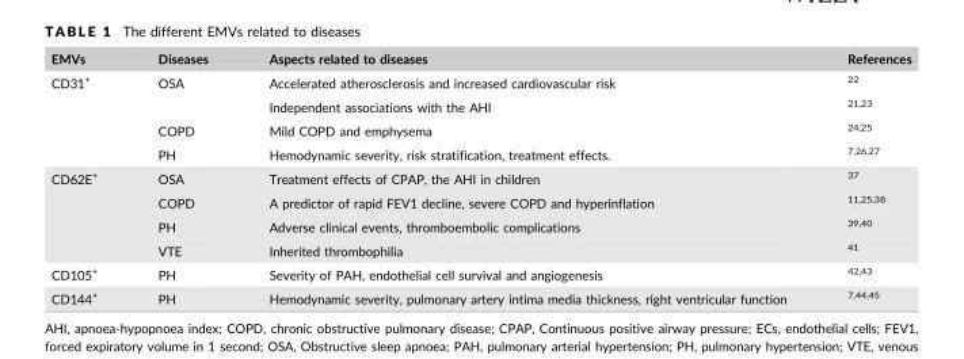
<table><thead><tr><td>EMVs</td><td>Diseases</td><td>Aspects related to diseases</td><td>References</td></tr></thead><tbody><tr><td rowspan="4">CD31<sup>+</sup></td><td rowspan="2">OSA</td><td>Accelerated atherosclerosis and increased cardiovascular risk</td><td>22</td></tr><tr><td>Independent associations with the AHI</td><td>21,23</td></tr><tr><td>COPD</td><td>Mild COPD and emphysema</td><td>24,25</td></tr><tr><td>PH</td><td>Hemodynamic severity, risk stratification, treatment effects.</td><td>7,26,27</td></tr><tr><td rowspan="4">CD62E<sup>+</sup></td><td>OSA</td><td>Treatment effects of CPAP, the AHI in children</td><td>37</td></tr><tr><td>COPD</td><td>A predictor of rapid FEV1 decline, severe COPD and hyperinflation</td><td>11,25,38</td></tr><tr><td>PH</td><td>Adverse clinical events, thromboembolic complications</td><td>39,40</td></tr><tr><td>VTE</td><td>Inherited thrombophilia</td><td>41</td></tr><tr><td>CD105<sup>+</sup></td><td>PH</td><td>Severity of PAH, endothelial cell survival and angiogenesis</td><td>42,43</td></tr><tr><td>CD144<sup>+</sup></td><td>PH</td><td>Hemodynamic severity, pulmonary artery intima media thickness, right ventricular function</td><td>7,44,45</td></tr></tbody></table>